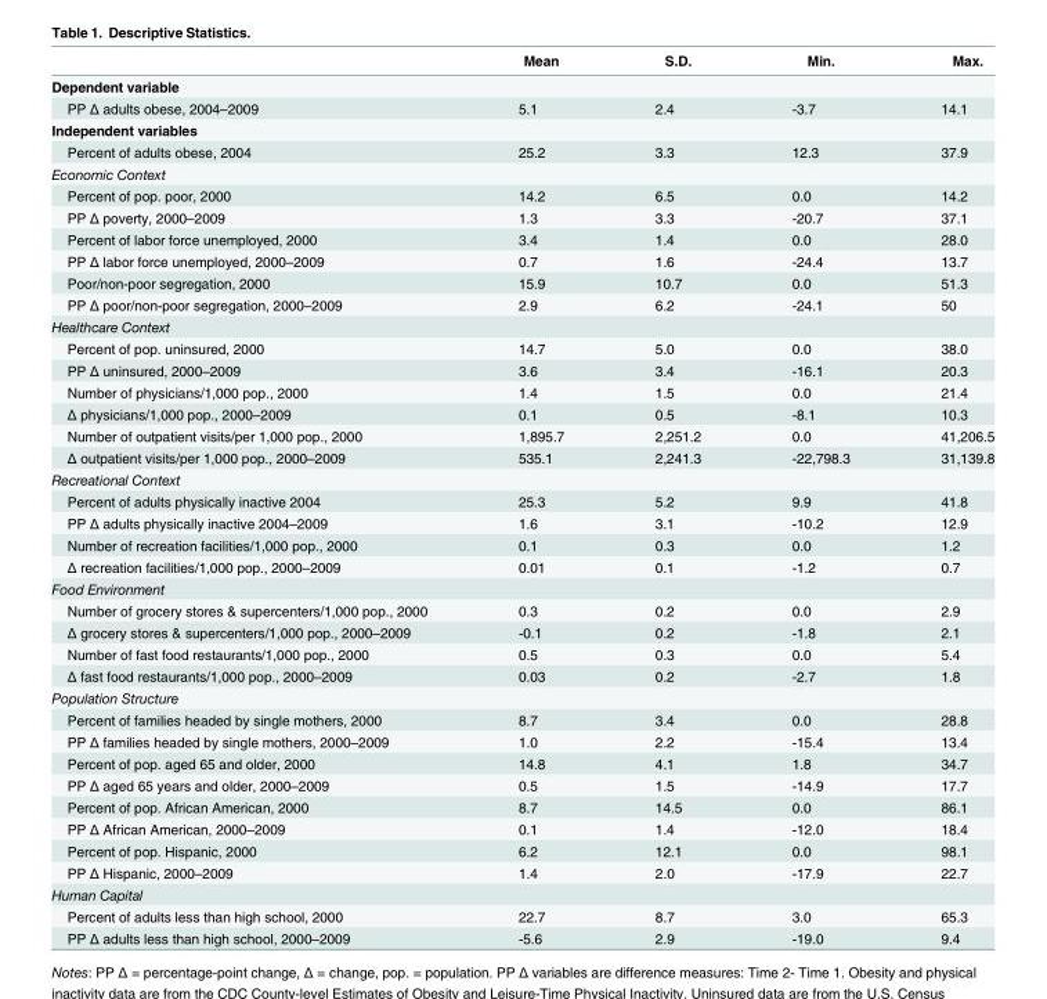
<table><thead><tr><td></td><td>Mean</td><td>S.D.</td><td>Min.</td><td>Max.</td></tr></thead><tbody><tr><td colspan="5">Dependent variable</td></tr><tr><td>PP Δ adults obese, 2004–2009</td><td>5.1</td><td>2.4</td><td>-3.7</td><td>14.1</td></tr><tr><td colspan="5">Independent variables</td></tr><tr><td>Percent of adults obese, 2004</td><td>25.2</td><td>3.3</td><td>12.3</td><td>37.9</td></tr><tr><td colspan="5">Economic Context</td></tr><tr><td>Percent of pop. poor, 2000</td><td>14.2</td><td>6.5</td><td>0.0</td><td>14.2</td></tr><tr><td>PP Δ poverty, 2000–2009</td><td>1.3</td><td>3.3</td><td>-20.7</td><td>37.1</td></tr><tr><td>Percent of labor force unemployed, 2000</td><td>3.4</td><td>1.4</td><td>0.0</td><td>28.0</td></tr><tr><td>PP Δ labor force unemployed, 2000–2009</td><td>0.7</td><td>1.6</td><td>-24.4</td><td>13.7</td></tr><tr><td>Poor/non-poor segregation, 2000</td><td>15.9</td><td>10.7</td><td>0.0</td><td>51.3</td></tr><tr><td>PP Δ poor/non-poor segregation, 2000–2009</td><td>2.9</td><td>6.2</td><td>-24.1</td><td>50</td></tr><tr><td colspan="5">Healthcare Context</td></tr><tr><td>Percent of pop. uninsured, 2000</td><td>14.7</td><td>5.0</td><td>0.0</td><td>38.0</td></tr><tr><td>PP Δ uninsured, 2000–2009</td><td>3.6</td><td>3.4</td><td>-16.1</td><td>20.3</td></tr><tr><td>Number of physicians/1,000 pop., 2000</td><td>1.4</td><td>1.5</td><td>0.0</td><td>21.4</td></tr><tr><td>Δ physicians/1,000 pop., 2000–2009</td><td>0.1</td><td>0.5</td><td>-8.1</td><td>10.3</td></tr><tr><td>Number of outpatient visits/per 1,000 pop., 2000</td><td>1,895.7</td><td>2,251.2</td><td>0.0</td><td>41,206.5</td></tr><tr><td>Δ outpatient visits/per 1,000 pop., 2000–2009</td><td>535.1</td><td>2,241.3</td><td>-22,798.3</td><td>31,139.8</td></tr><tr><td colspan="5">Recreational Context</td></tr><tr><td>Percent of adults physically inactive 2004</td><td>25.3</td><td>5.2</td><td>9.9</td><td>41.8</td></tr><tr><td>PP Δ adults physically inactive 2004–2009</td><td>1.6</td><td>3.1</td><td>-10.2</td><td>12.9</td></tr><tr><td>Number of recreation facilities/1,000 pop., 2000</td><td>0.1</td><td>0.3</td><td>0.0</td><td>1.2</td></tr><tr><td>Δ recreation facilities/1,000 pop., 2000–2009</td><td>0.01</td><td>0.1</td><td>-1.2</td><td>0.7</td></tr><tr><td colspan="5">Food Environment</td></tr><tr><td>Number of grocery stores &amp; supercenters/1,000 pop., 2000</td><td>0.3</td><td>0.2</td><td>0.0</td><td>2.9</td></tr><tr><td>Δ grocery stores &amp; supercenters/1,000 pop., 2000–2009</td><td>-0.1</td><td>0.2</td><td>-1.8</td><td>2.1</td></tr><tr><td>Number of fast food restaurants/1,000 pop., 2000</td><td>0.5</td><td>0.3</td><td>0.0</td><td>5.4</td></tr><tr><td>Δ fast food restaurants/1,000 pop., 2000–2009</td><td>0.03</td><td>0.2</td><td>-2.7</td><td>1.8</td></tr><tr><td colspan="5">Population Structure</td></tr><tr><td>Percent of families headed by single mothers, 2000</td><td>8.7</td><td>3.4</td><td>0.0</td><td>28.8</td></tr><tr><td>PP Δ families headed by single mothers, 2000–2009</td><td>1.0</td><td>2.2</td><td>-15.4</td><td>13.4</td></tr><tr><td>Percent of pop. aged 65 and older, 2000</td><td>14.8</td><td>4.1</td><td>1.8</td><td>34.7</td></tr><tr><td>PP Δ aged 65 years and older, 2000–2009</td><td>0.5</td><td>1.5</td><td>-14.9</td><td>17.7</td></tr><tr><td>Percent of pop. African American, 2000</td><td>8.7</td><td>14.5</td><td>0.0</td><td>86.1</td></tr><tr><td>PP Δ African American, 2000–2009</td><td>0.1</td><td>1.4</td><td>-12.0</td><td>18.4</td></tr><tr><td>Percent of pop. Hispanic, 2000</td><td>6.2</td><td>12.1</td><td>0.0</td><td>98.1</td></tr><tr><td>PP Δ Hispanic, 2000–2009</td><td>1.4</td><td>2.0</td><td>-17.9</td><td>22.7</td></tr><tr><td colspan="5">Human Capital</td></tr><tr><td>Percent of adults less than high school, 2000</td><td>22.7</td><td>8.7</td><td>3.0</td><td>65.3</td></tr><tr><td>PP Δ adults less than high school, 2000–2009</td><td>-5.6</td><td>2.9</td><td>-19.0</td><td>9.4</td></tr></tbody></table>